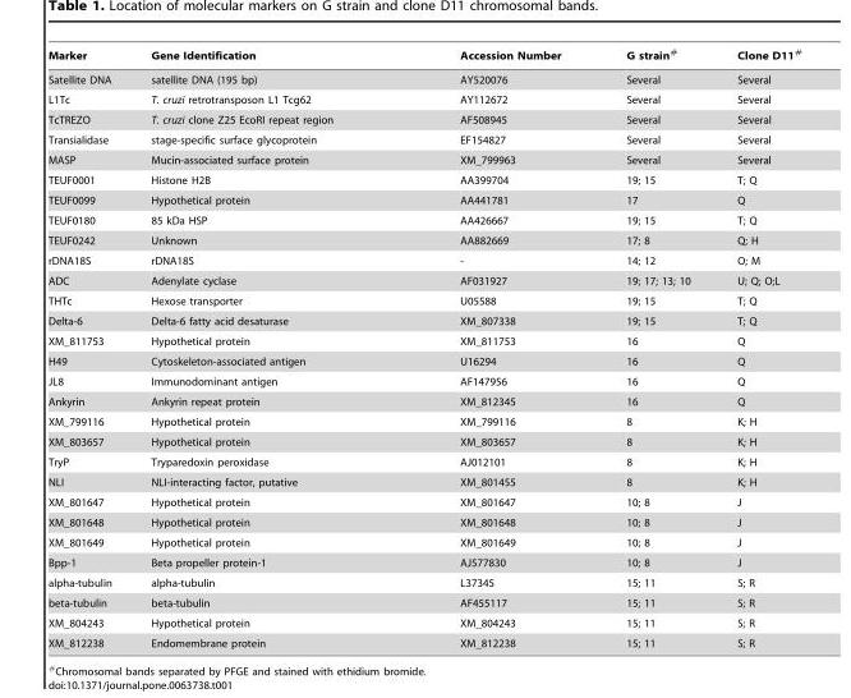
<table><thead><tr><td>Marker</td><td>Gene Identification</td><td>Accession Number</td><td>G strain#</td><td>Clone D11#</td></tr></thead><tbody><tr><td>Satellite DNA</td><td>satellite DNA (195 bp)</td><td>AY520076</td><td>Several</td><td>Several</td></tr><tr><td>L1Tc</td><td>T. cruzi retrotransposon L1 Tcg62</td><td>AY112672</td><td>Several</td><td>Several</td></tr><tr><td>TcTREZO</td><td>T. cruzi clone Z25 EcoRI repeat region</td><td>AF508945</td><td>Several</td><td>Several</td></tr><tr><td>Transialidase</td><td>stage-specific surface glycoprotein</td><td>EF154827</td><td>Several</td><td>Several</td></tr><tr><td>MASP</td><td>Mucin-associated surface protein</td><td>XM_799963</td><td>Several</td><td>Several</td></tr><tr><td>TEUF0001</td><td>Histone H2B</td><td>AA399704</td><td>19; 15</td><td>T; Q</td></tr><tr><td>TEUF0099</td><td>Hypothetical protein</td><td>AA441781</td><td>17</td><td>Q</td></tr><tr><td>TEUF0180</td><td>85 kDa HSP</td><td>AA426667</td><td>19; 15</td><td>T; Q</td></tr><tr><td>TEUF0242</td><td>Unknown</td><td>AA882669</td><td>17; 8</td><td>Q; H</td></tr><tr><td>rDNA18S</td><td>rDNA18S</td><td>-</td><td>14; 12</td><td>O; M</td></tr><tr><td>ADC</td><td>Adenylate cyclase</td><td>AF031927</td><td>19; 17; 13; 10</td><td>U; Q; O;L</td></tr><tr><td>THTc</td><td>Hexose transporter</td><td>U05588</td><td>19; 15</td><td>T; Q</td></tr><tr><td>Delta-6</td><td>Delta-6 fatty acid desaturase</td><td>XM_807338</td><td>19; 15</td><td>T; Q</td></tr><tr><td>XM_811753</td><td>Hypothetical protein</td><td>XM_811753</td><td>16</td><td>Q</td></tr><tr><td>H49</td><td>Cytoskeleton-associated antigen</td><td>U16294</td><td>16</td><td>Q</td></tr><tr><td>JL8</td><td>Immunodominant antigen</td><td>AF147956</td><td>16</td><td>Q</td></tr><tr><td>Ankyrin</td><td>Ankyrin repeat protein</td><td>XM_812345</td><td>16</td><td>Q</td></tr><tr><td>XM_799116</td><td>Hypothetical protein</td><td>XM_799116</td><td>8</td><td>K; H</td></tr><tr><td>XM_803657</td><td>Hypothetical protein</td><td>XM_803657</td><td>8</td><td>K; H</td></tr><tr><td>TryP</td><td>Tryparedoxin peroxidase</td><td>AJ012101</td><td>8</td><td>K; H</td></tr><tr><td>NLI</td><td>NLI-interacting factor, putative</td><td>XM_801455</td><td>8</td><td>K; H</td></tr><tr><td>XM_801647</td><td>Hypothetical protein</td><td>XM_801647</td><td>10; 8</td><td>J</td></tr><tr><td>XM_801648</td><td>Hypothetical protein</td><td>XM_801648</td><td>10; 8</td><td>J</td></tr><tr><td>XM_801649</td><td>Hypothetical protein</td><td>XM_801649</td><td>10; 8</td><td>J</td></tr><tr><td>Bpp-1</td><td>Beta propeller protein-1</td><td>AJ577830</td><td>10; 8</td><td>J</td></tr><tr><td>alpha-tubulin</td><td>alpha-tubulin</td><td>L37345</td><td>15; 11</td><td>S; R</td></tr><tr><td>beta-tubulin</td><td>beta-tubulin</td><td>AF455117</td><td>15; 11</td><td>S; R</td></tr><tr><td>XM_804243</td><td>Hypothetical protein</td><td>XM_804243</td><td>15; 11</td><td>S; R</td></tr><tr><td>XM_812238</td><td>Endomembrane protein</td><td>XM_812238</td><td>15; 11</td><td>S; R</td></tr></tbody></table>